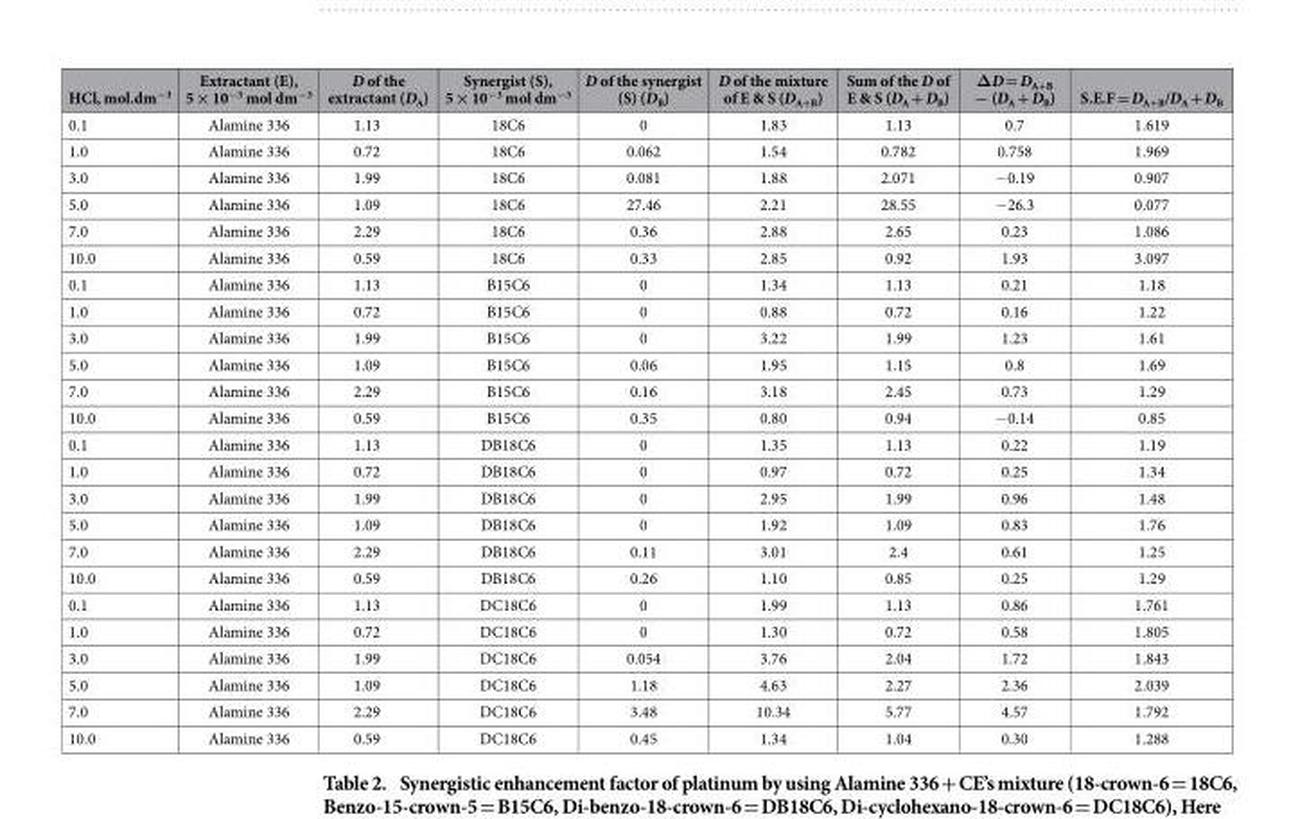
<table><thead><tr><td>HCl, mol.dm<sup>−3</sup></td><td>Extractant (E), 5 × 10<sup>−3</sup> mol dm<sup>−3</sup></td><td>D of the extractant (D<sub>A</sub>)</td><td>Synergist (S), 5 × 10<sup>−3</sup> mol dm<sup>−3</sup></td><td>D of the synergist (S) (D<sub>B</sub>)</td><td>D of the mixture of E &amp; S (D<sub>A+B</sub>)</td><td>Sum of the D of E &amp; S (D<sub>A</sub> + D<sub>B</sub>)</td><td>ΔD = D<sub>A+B</sub> − (D<sub>A</sub> + D<sub>B</sub>)</td><td>S.E.F = D<sub>A+B</sub>/D<sub>A</sub> + D<sub>B</sub></td></tr></thead><tbody><tr><td>0.1</td><td>Alamine 336</td><td>1.13</td><td>18C6</td><td>0</td><td>1.83</td><td>1.13</td><td>0.7</td><td>1.619</td></tr><tr><td>1.0</td><td>Alamine 336</td><td>0.72</td><td>18C6</td><td>0.062</td><td>1.54</td><td>0.782</td><td>0.758</td><td>1.969</td></tr><tr><td>3.0</td><td>Alamine 336</td><td>1.99</td><td>18C6</td><td>0.081</td><td>1.88</td><td>2.071</td><td>− 0.19</td><td>0.907</td></tr><tr><td>5.0</td><td>Alamine 336</td><td>1.09</td><td>18C6</td><td>27.46</td><td>2.21</td><td>28.55</td><td>− 26.3</td><td>0.077</td></tr><tr><td>7.0</td><td>Alamine 336</td><td>2.29</td><td>18C6</td><td>0.36</td><td>2.88</td><td>2.65</td><td>0.23</td><td>1.086</td></tr><tr><td>10.0</td><td>Alamine 336</td><td>0.59</td><td>18C6</td><td>0.33</td><td>2.85</td><td>0.92</td><td>1.93</td><td>3.097</td></tr><tr><td>0.1</td><td>Alamine 336</td><td>1.13</td><td>B15C6</td><td>0</td><td>1.34</td><td>1.13</td><td>0.21</td><td>1.18</td></tr><tr><td>1.0</td><td>Alamine 336</td><td>0.72</td><td>B15C6</td><td>0</td><td>0.88</td><td>0.72</td><td>0.16</td><td>1.22</td></tr><tr><td>3.0</td><td>Alamine 336</td><td>1.99</td><td>B15C6</td><td>0</td><td>3.22</td><td>1.99</td><td>1.23</td><td>1.61</td></tr><tr><td>5.0</td><td>Alamine 336</td><td>1.09</td><td>B15C6</td><td>0.06</td><td>1.95</td><td>1.15</td><td>0.8</td><td>1.69</td></tr><tr><td>7.0</td><td>Alamine 336</td><td>2.29</td><td>B15C6</td><td>0.16</td><td>3.18</td><td>2.45</td><td>0.73</td><td>1.29</td></tr><tr><td>10.0</td><td>Alamine 336</td><td>0.59</td><td>B15C6</td><td>0.35</td><td>0.80</td><td>0.94</td><td>− 0.14</td><td>0.85</td></tr><tr><td>0.1</td><td>Alamine 336</td><td>1.13</td><td>DB18C6</td><td>0</td><td>1.35</td><td>1.13</td><td>0.22</td><td>1.19</td></tr><tr><td>1.0</td><td>Alamine 336</td><td>0.72</td><td>DB18C6</td><td>0</td><td>0.97</td><td>0.72</td><td>0.25</td><td>1.34</td></tr><tr><td>3.0</td><td>Alamine 336</td><td>1.99</td><td>DB18C6</td><td>0</td><td>2.95</td><td>1.99</td><td>0.96</td><td>1.48</td></tr><tr><td>5.0</td><td>Alamine 336</td><td>1.09</td><td>DB18C6</td><td>0</td><td>1.92</td><td>1.09</td><td>0.83</td><td>1.76</td></tr><tr><td>7.0</td><td>Alamine 336</td><td>2.29</td><td>DB18C6</td><td>0.11</td><td>3.01</td><td>2.4</td><td>0.61</td><td>1.25</td></tr><tr><td>10.0</td><td>Alamine 336</td><td>0.59</td><td>DB18C6</td><td>0.26</td><td>1.10</td><td>0.85</td><td>0.25</td><td>1.29</td></tr><tr><td>0.1</td><td>Alamine 336</td><td>1.13</td><td>DC18C6</td><td>0</td><td>1.99</td><td>1.13</td><td>0.86</td><td>1.761</td></tr><tr><td>1.0</td><td>Alamine 336</td><td>0.72</td><td>DC18C6</td><td>0</td><td>1.30</td><td>0.72</td><td>0.58</td><td>1.805</td></tr><tr><td>3.0</td><td>Alamine 336</td><td>1.99</td><td>DC18C6</td><td>0.054</td><td>3.76</td><td>2.04</td><td>1.72</td><td>1.843</td></tr><tr><td>5.0</td><td>Alamine 336</td><td>1.09</td><td>DC18C6</td><td>1.18</td><td>4.63</td><td>2.27</td><td>2.36</td><td>2.039</td></tr><tr><td>7.0</td><td>Alamine 336</td><td>2.29</td><td>DC18C6</td><td>3.48</td><td>10.34</td><td>5.77</td><td>4.57</td><td>1.792</td></tr><tr><td>10.0</td><td>Alamine 336</td><td>0.59</td><td>DC18C6</td><td>0.45</td><td>1.34</td><td>1.04</td><td>0.30</td><td>1.288</td></tr></tbody></table>